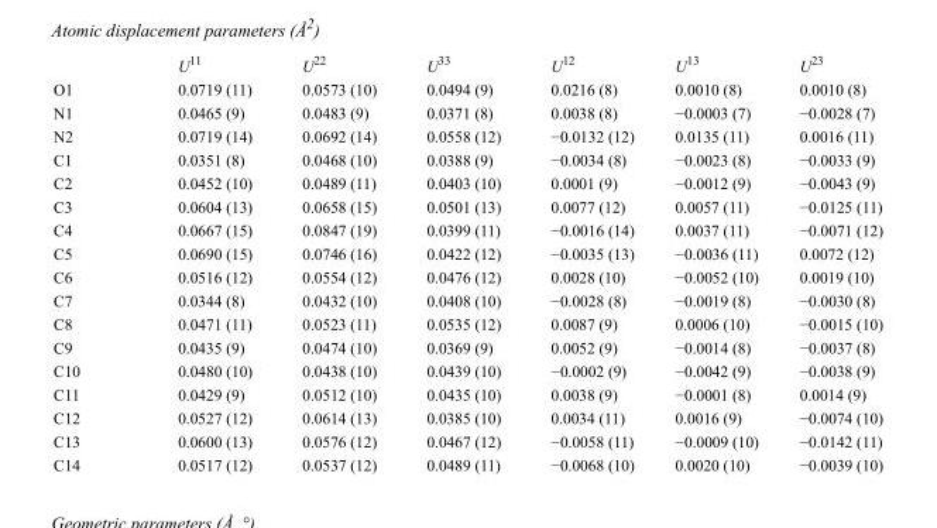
<table><thead><tr><td></td><td>U<sup>11</sup></td><td>U<sup>22</sup></td><td>U<sup>33</sup></td><td>U<sup>12</sup></td><td>U<sup>13</sup></td><td>U<sup>23</sup></td></tr></thead><tbody><tr><td>O1</td><td>0.0719 (11)</td><td>0.0573 (10)</td><td>0.0494 (9)</td><td>0.0216 (8)</td><td>0.0010 (8)</td><td>0.0010 (8)</td></tr><tr><td>N1</td><td>0.0465 (9)</td><td>0.0483 (9)</td><td>0.0371 (8)</td><td>0.0038 (8)</td><td>−0.0003 (7)</td><td>−0.0028 (7)</td></tr><tr><td>N2</td><td>0.0719 (14)</td><td>0.0692 (14)</td><td>0.0558 (12)</td><td>−0.0132 (12)</td><td>0.0135 (11)</td><td>0.0016 (11)</td></tr><tr><td>C1</td><td>0.0351 (8)</td><td>0.0468 (10)</td><td>0.0388 (9)</td><td>−0.0034 (8)</td><td>−0.0023 (8)</td><td>−0.0033 (9)</td></tr><tr><td>C2</td><td>0.0452 (10)</td><td>0.0489 (11)</td><td>0.0403 (10)</td><td>0.0001 (9)</td><td>−0.0012 (9)</td><td>−0.0043 (9)</td></tr><tr><td>C3</td><td>0.0604 (13)</td><td>0.0658 (15)</td><td>0.0501 (13)</td><td>0.0077 (12)</td><td>0.0057 (11)</td><td>−0.0125 (11)</td></tr><tr><td>C4</td><td>0.0667 (15)</td><td>0.0847 (19)</td><td>0.0399 (11)</td><td>−0.0016 (14)</td><td>0.0037 (11)</td><td>−0.0071 (12)</td></tr><tr><td>C5</td><td>0.0690 (15)</td><td>0.0746 (16)</td><td>0.0422 (12)</td><td>−0.0035 (13)</td><td>−0.0036 (11)</td><td>0.0072 (12)</td></tr><tr><td>C6</td><td>0.0516 (12)</td><td>0.0554 (12)</td><td>0.0476 (12)</td><td>0.0028 (10)</td><td>−0.0052 (10)</td><td>0.0019 (10)</td></tr><tr><td>C7</td><td>0.0344 (8)</td><td>0.0432 (10)</td><td>0.0408 (10)</td><td>−0.0028 (8)</td><td>−0.0019 (8)</td><td>−0.0030 (8)</td></tr><tr><td>C8</td><td>0.0471 (11)</td><td>0.0523 (11)</td><td>0.0535 (12)</td><td>0.0087 (9)</td><td>0.0006 (10)</td><td>−0.0015 (10)</td></tr><tr><td>C9</td><td>0.0435 (9)</td><td>0.0474 (10)</td><td>0.0369 (9)</td><td>0.0052 (9)</td><td>−0.0014 (8)</td><td>−0.0037 (8)</td></tr><tr><td>C10</td><td>0.0480 (10)</td><td>0.0438 (10)</td><td>0.0439 (10)</td><td>−0.0002 (9)</td><td>−0.0042 (9)</td><td>−0.0038 (9)</td></tr><tr><td>C11</td><td>0.0429 (9)</td><td>0.0512 (10)</td><td>0.0435 (10)</td><td>0.0038 (9)</td><td>−0.0001 (8)</td><td>0.0014 (9)</td></tr><tr><td>C12</td><td>0.0527 (12)</td><td>0.0614 (13)</td><td>0.0385 (10)</td><td>0.0034 (11)</td><td>0.0016 (9)</td><td>−0.0074 (10)</td></tr><tr><td>C13</td><td>0.0600 (13)</td><td>0.0576 (12)</td><td>0.0467 (12)</td><td>−0.0058 (11)</td><td>−0.0009 (10)</td><td>−0.0142 (11)</td></tr><tr><td>C14</td><td>0.0517 (12)</td><td>0.0537 (12)</td><td>0.0489 (11)</td><td>−0.0068 (10)</td><td>0.0020 (10)</td><td>−0.0039 (10)</td></tr></tbody></table>